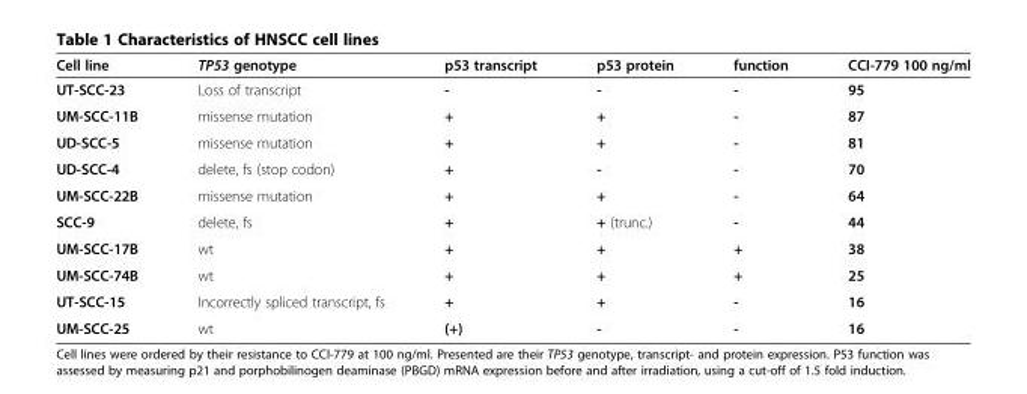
<table><thead><tr><td>Cell line</td><td>TP53 genotype</td><td>p53 transcript</td><td>p53 protein</td><td>function</td><td>CCI-779 100 ng/ml</td></tr></thead><tbody><tr><td>UT-SCC-23</td><td>Loss of transcript</td><td>-</td><td>-</td><td>-</td><td>95</td></tr><tr><td>UM-SCC-11B</td><td>missense mutation</td><td>+</td><td>+</td><td>-</td><td>87</td></tr><tr><td>UD-SCC-5</td><td>missense mutation</td><td>+</td><td>+</td><td>-</td><td>81</td></tr><tr><td>UD-SCC-4</td><td>delete, fs (stop codon)</td><td>+</td><td>-</td><td>-</td><td>70</td></tr><tr><td>UM-SCC-22B</td><td>missense mutation</td><td>+</td><td>+</td><td>-</td><td>64</td></tr><tr><td>SCC-9</td><td>delete, fs</td><td>+</td><td>+ (trunc.)</td><td>-</td><td>44</td></tr><tr><td>UM-SCC-17B</td><td>wt</td><td>+</td><td>+</td><td>+</td><td>38</td></tr><tr><td>UM-SCC-74B</td><td>wt</td><td>+</td><td>+</td><td>+</td><td>25</td></tr><tr><td>UT-SCC-15</td><td>Incorrectly spliced transcript, fs</td><td>+</td><td>+</td><td>-</td><td>16</td></tr><tr><td>UM-SCC-25</td><td>wt</td><td>(+)</td><td>-</td><td>-</td><td>16</td></tr></tbody></table>